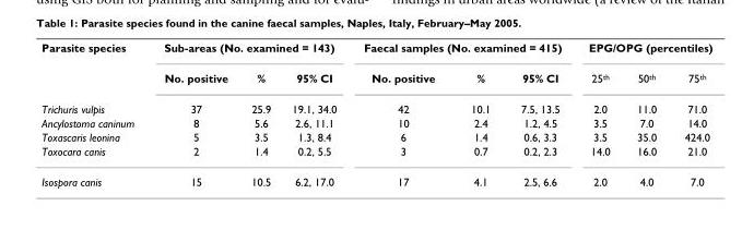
<table><tbody><tr><td rowspan="2">Parasite species</td><td colspan="3">Sub-areas (No. examined = 143)</td><td colspan="3">Faecal samples (No. examined = 415)</td><td colspan="3">EPG/OPG (percentiles)</td></tr><tr><td>No. positive</td><td>%</td><td>95% CI</td><td>No. positive</td><td>%</td><td>95% CI</td><td>25th</td><td>50th</td><td>75th</td></tr><tr><td>Trichuris vulpis</td><td>37</td><td>25.9</td><td>19.1, 34.0</td><td>42</td><td>10.1</td><td>7.5, 13.5</td><td>2.0</td><td>11.0</td><td>71.0</td></tr><tr><td>Ancylostoma caninum</td><td>8</td><td>5.6</td><td>2.6, 11.1</td><td>10</td><td>2.4</td><td>1.2, 4.5</td><td>3.5</td><td>7.0</td><td>14.0</td></tr><tr><td>Toxascaris leonina</td><td>5</td><td>3.5</td><td>1.3, 8.4</td><td>6</td><td>1.4</td><td>0.6, 3.3</td><td>3.5</td><td>35.0</td><td>424.0</td></tr><tr><td>Toxocara canis</td><td>2</td><td>1.4</td><td>0.2, 5.5</td><td>3</td><td>0.7</td><td>0.2, 2.3</td><td>14.0</td><td>16.0</td><td>21.0</td></tr><tr><td>Isospora canis</td><td>15</td><td>10.5</td><td>6.2, 17.0</td><td>17</td><td>4.1</td><td>2.5, 6.6</td><td>2.0</td><td>4.0</td><td>7.0</td></tr></tbody></table>